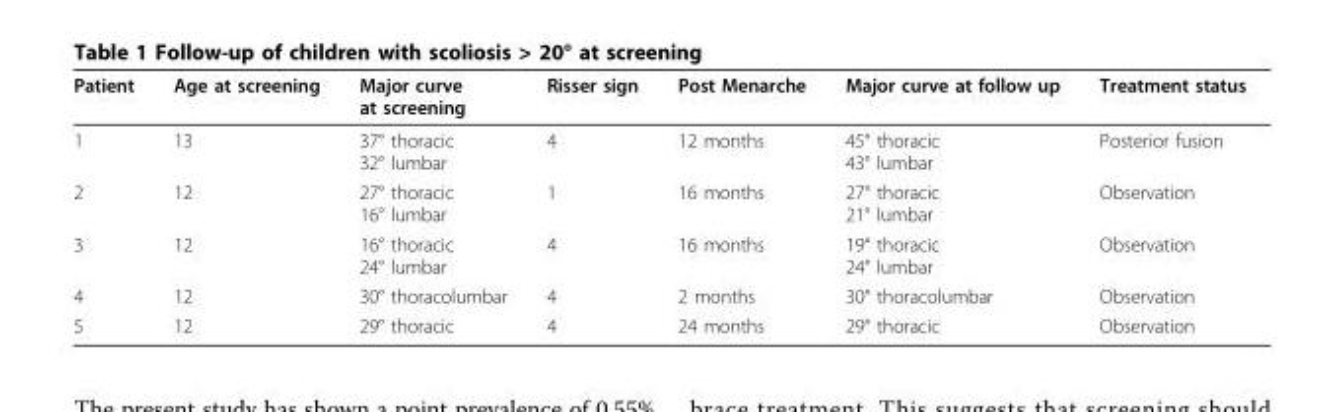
<table><thead><tr><td>Patient</td><td>Age at screening</td><td>Major curve at screening</td><td>Risser sign</td><td>Post Menarche</td><td>Major curve at follow up</td><td>Treatment status</td></tr></thead><tbody><tr><td>1</td><td>13</td><td>37° thoracic 32° lumbar</td><td>4</td><td>12 months</td><td>45° thoracic 43° lumbar</td><td>Posterior fusion</td></tr><tr><td>2</td><td>12</td><td>27° thoracic 16° lumbar</td><td>1</td><td>16 months</td><td>27° thoracic 21° lumbar</td><td>Observation</td></tr><tr><td>3</td><td>12</td><td>16° thoracic 24° lumbar</td><td>4</td><td>16 months</td><td>19° thoracic 24° lumbar</td><td>Observation</td></tr><tr><td>4</td><td>12</td><td>30° thoracolumbar</td><td>4</td><td>2 months</td><td>30° thoracolumbar</td><td>Observation</td></tr><tr><td>5</td><td>12</td><td>29° thoracic</td><td>4</td><td>24 months</td><td>29° thoracic</td><td>Observation</td></tr></tbody></table>